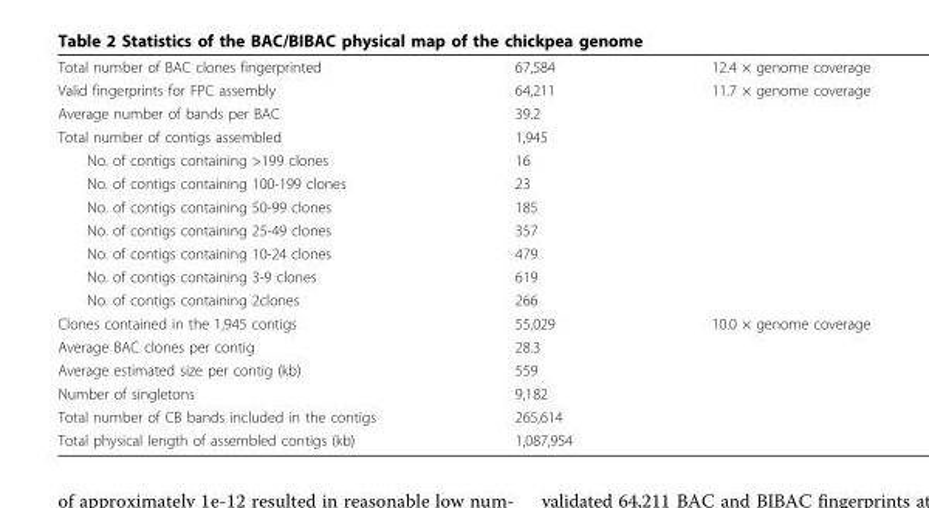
<table><tbody><tr><td>Total number of BAC clones fingerprinted</td><td>67,584</td><td>12.4 × genome coverage</td></tr><tr><td>Valid fingerprints for FPC assembly</td><td>64,211</td><td>11.7 × genome coverage</td></tr><tr><td>Average number of bands per BAC</td><td>39.2</td><td></td></tr><tr><td>Total number of contigs assembled</td><td>1,945</td><td></td></tr><tr><td>No. of contigs containing &gt;199 clones</td><td>16</td><td></td></tr><tr><td>No. of contigs containing 100-199 clones</td><td>23</td><td></td></tr><tr><td>No. of contigs containing 50-99 clones</td><td>185</td><td></td></tr><tr><td>No. of contigs containing 25-49 clones</td><td>357</td><td></td></tr><tr><td>No. of contigs containing 10-24 clones</td><td>479</td><td></td></tr><tr><td>No. of contigs containing 3-9 clones</td><td>619</td><td></td></tr><tr><td>No. of contigs containing 2clones</td><td>266</td><td></td></tr><tr><td>Clones contained in the 1,945 contigs</td><td>55,029</td><td>10.0 × genome coverage</td></tr><tr><td>Average BAC clones per contig</td><td>28.3</td><td></td></tr><tr><td>Average estimated size per contig (kb)</td><td>559</td><td></td></tr><tr><td>Number of singletons</td><td>9,182</td><td></td></tr><tr><td>Total number of CB bands included in the contigs</td><td>265,614</td><td></td></tr><tr><td>Total physical length of assembled contigs (kb)</td><td>1,087,954</td><td></td></tr></tbody></table>